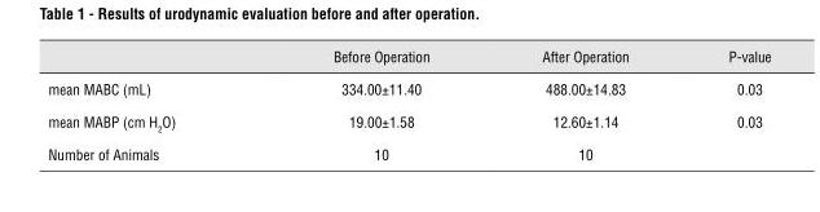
<table><thead><tr><td></td><td>Before Operation</td><td>After Operation</td><td>P-value</td></tr></thead><tbody><tr><td>mean MABC (mL)</td><td>334.00±11.40</td><td>488.00±14.83</td><td>0.03</td></tr><tr><td>mean MABP (cm H<sub>2</sub>O)</td><td>19.00±1.58</td><td>12.60±1.14</td><td>0.03</td></tr><tr><td>Number of Animals</td><td>10</td><td>10</td><td></td></tr></tbody></table>